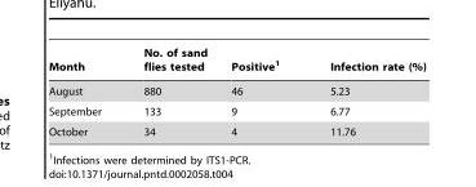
<table><thead><tr><td>Month</td><td>No. of sand flies tested</td><td>Positive<sup>1</sup></td><td>Infection rate (%)</td></tr></thead><tbody><tr><td>August</td><td>880</td><td>46</td><td>5.23</td></tr><tr><td>September</td><td>133</td><td>9</td><td>6.77</td></tr><tr><td>October</td><td>34</td><td>4</td><td>11.76</td></tr></tbody></table>